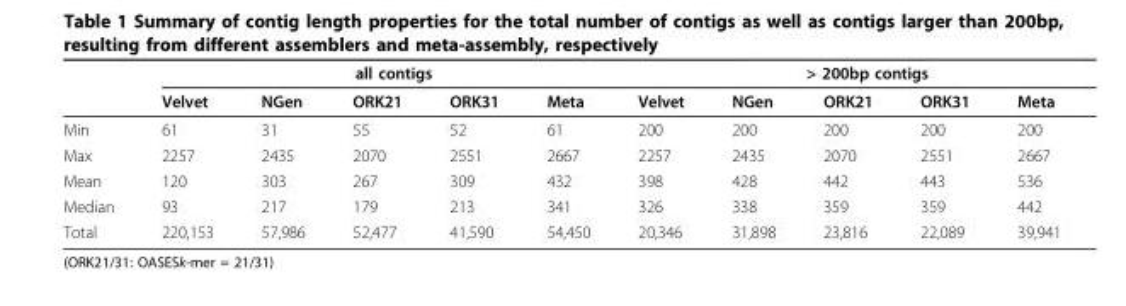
<table><thead><tr><td rowspan="2"></td><td colspan="5">all contigs</td><td colspan="5">&gt; 200bp contigs</td></tr><tr><td>Velvet</td><td>NGen</td><td>ORK21</td><td>ORK31</td><td>Meta</td><td>Velvet</td><td>NGen</td><td>ORK21</td><td>ORK31</td><td>Meta</td></tr></thead><tbody><tr><td>Min</td><td>61</td><td>31</td><td>55</td><td>52</td><td>61</td><td>200</td><td>200</td><td>200</td><td>200</td><td>200</td></tr><tr><td>Max</td><td>2257</td><td>2435</td><td>2070</td><td>2551</td><td>2667</td><td>2257</td><td>2435</td><td>2070</td><td>2551</td><td>2667</td></tr><tr><td>Mean</td><td>120</td><td>303</td><td>267</td><td>309</td><td>432</td><td>398</td><td>428</td><td>442</td><td>443</td><td>536</td></tr><tr><td>Median</td><td>93</td><td>217</td><td>179</td><td>213</td><td>341</td><td>326</td><td>338</td><td>359</td><td>359</td><td>442</td></tr><tr><td>Total</td><td>220,153</td><td>57,986</td><td>52,477</td><td>41,590</td><td>54,450</td><td>20,346</td><td>31,898</td><td>23,816</td><td>22,089</td><td>39,941</td></tr></tbody></table>